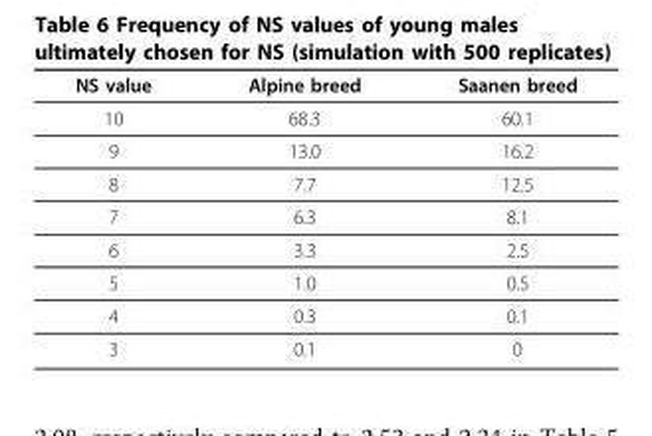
<table><thead><tr><td>NS value</td><td>Alpine breed</td><td>Saanen breed</td></tr></thead><tbody><tr><td>10</td><td>68.3</td><td>60.1</td></tr><tr><td>9</td><td>13.0</td><td>16.2</td></tr><tr><td>8</td><td>7.7</td><td>12.5</td></tr><tr><td>7</td><td>6.3</td><td>8.1</td></tr><tr><td>6</td><td>3.3</td><td>2.5</td></tr><tr><td>5</td><td>1.0</td><td>0.5</td></tr><tr><td>4</td><td>0.3</td><td>0.1</td></tr><tr><td>3</td><td>0.1</td><td>0</td></tr></tbody></table>